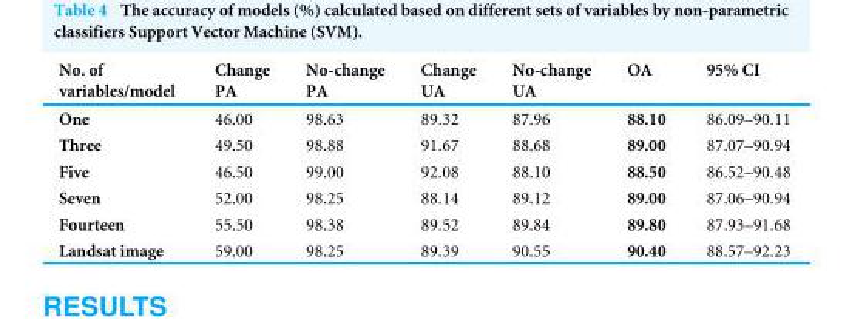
<table><thead><tr><td>No. of variables/model</td><td>Change PA</td><td>No-change PA</td><td>Change UA</td><td>No-change UA</td><td>OA</td><td>95% CI</td></tr></thead><tbody><tr><td>One</td><td>46.00</td><td>98.63</td><td>89.32</td><td>87.96</td><td>88.10</td><td>86.09–90.11</td></tr><tr><td>Three</td><td>49.50</td><td>98.88</td><td>91.67</td><td>88.68</td><td>89.00</td><td>87.07–90.94</td></tr><tr><td>Five</td><td>46.50</td><td>99.00</td><td>92.08</td><td>88.10</td><td>88.50</td><td>86.52–90.48</td></tr><tr><td>Seven</td><td>52.00</td><td>98.25</td><td>88.14</td><td>89.12</td><td>89.00</td><td>87.06–90.94</td></tr><tr><td>Fourteen</td><td>55.50</td><td>98.38</td><td>89.52</td><td>89.84</td><td>89.80</td><td>87.93–91.68</td></tr><tr><td>Landsat image</td><td>59.00</td><td>98.25</td><td>89.39</td><td>90.55</td><td>90.40</td><td>88.57–92.23</td></tr></tbody></table>